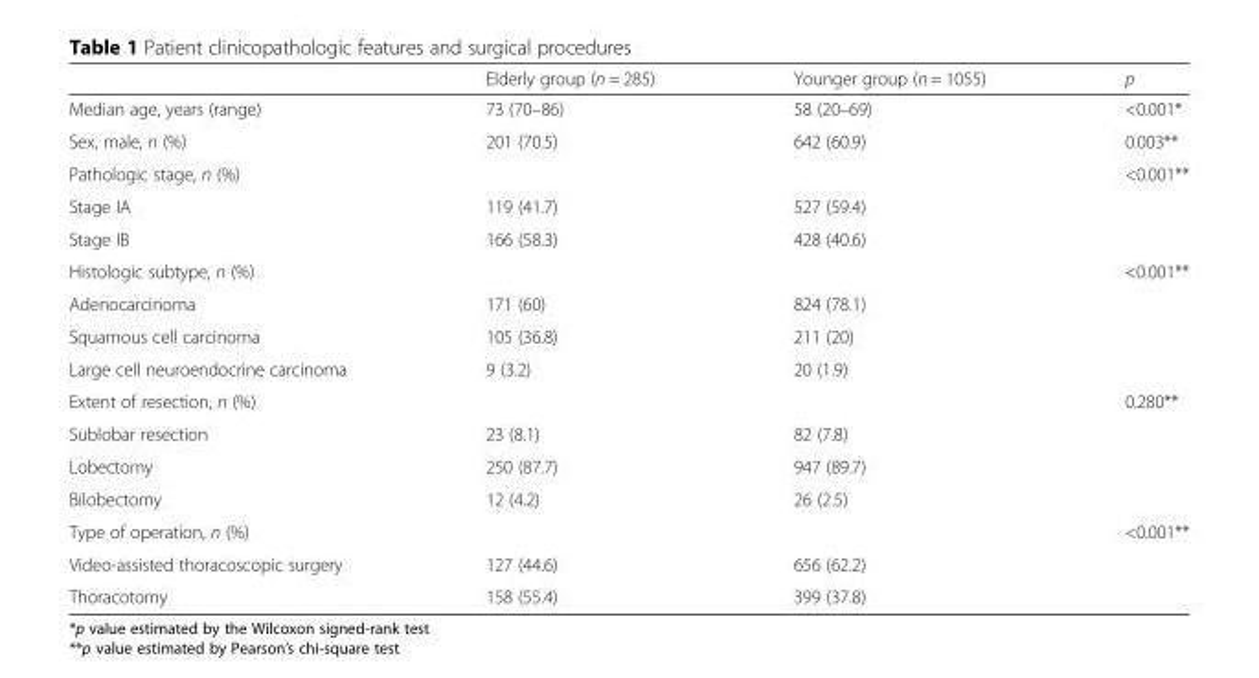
<table><thead><tr><td></td><td>Elderly group (n = 285)</td><td>Younger group (n = 1055)</td><td>p</td></tr></thead><tbody><tr><td>Median age, years (range)</td><td>73 (70–86)</td><td>58 (20–69)</td><td>&lt;0.001*</td></tr><tr><td>Sex, male, n (%)</td><td>201 (70.5)</td><td>642 (60.9)</td><td>0.003**</td></tr><tr><td>Pathologic stage, n (%)</td><td></td><td></td><td>&lt;0.001**</td></tr><tr><td>Stage IA</td><td>119 (41.7)</td><td>527 (59.4)</td><td></td></tr><tr><td>Stage IB</td><td>166 (58.3)</td><td>428 (40.6)</td><td></td></tr><tr><td>Histologic subtype, n (%)</td><td></td><td></td><td>&lt;0.001**</td></tr><tr><td>Adenocarcinoma</td><td>171 (60)</td><td>824 (78.1)</td><td></td></tr><tr><td>Squamous cell carcinoma</td><td>105 (36.8)</td><td>211 (20)</td><td></td></tr><tr><td>Large cell neuroendocrine carcinoma</td><td>9 (3.2)</td><td>20 (1.9)</td><td></td></tr><tr><td>Extent of resection, n (%)</td><td></td><td></td><td>0.280**</td></tr><tr><td>Sublobar resection</td><td>23 (8.1)</td><td>82 (7.8)</td><td></td></tr><tr><td>Lobectomy</td><td>250 (87.7)</td><td>947 (89.7)</td><td></td></tr><tr><td>Bilobectomy</td><td>12 (4.2)</td><td>26 (2.5)</td><td></td></tr><tr><td>Type of operation, n (%)</td><td></td><td></td><td>&lt;0.001**</td></tr><tr><td>Video-assisted thoracoscopic surgery</td><td>127 (44.6)</td><td>656 (62.2)</td><td></td></tr><tr><td>Thoracotomy</td><td>158 (55.4)</td><td>399 (37.8)</td><td></td></tr></tbody></table>